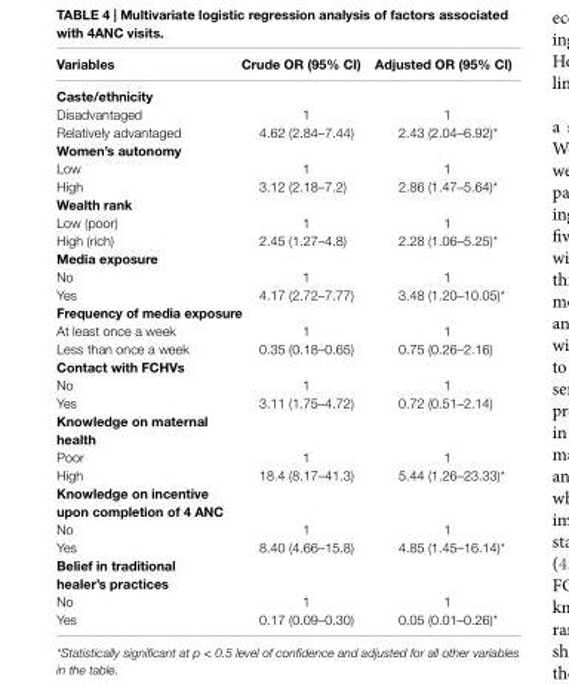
<table><thead><tr><td>Variables</td><td>crude Or (95% ci)</td><td>adjusted Or (95% ci)</td></tr></thead><tbody><tr><td colspan="3">caste/ethnicity</td></tr><tr><td>Disadvantaged</td><td>1</td><td>1</td></tr><tr><td>Relatively advantaged</td><td>4.62 (2.84–7.44)</td><td>2.43 (2.04–6.92)*</td></tr><tr><td colspan="3">Women’s autonomy</td></tr><tr><td>Low</td><td>1</td><td>1</td></tr><tr><td>High</td><td>3.12 (2.18–7.2)</td><td>2.86 (1.47–5.64)*</td></tr><tr><td colspan="3">Wealth rank</td></tr><tr><td>Low (poor)</td><td>1</td><td>1</td></tr><tr><td>High (rich)</td><td>2.45 (1.27–4.8)</td><td>2.28 (1.06–5.25)*</td></tr><tr><td colspan="3">Media exposure</td></tr><tr><td>No</td><td>1</td><td>1</td></tr><tr><td>Yes</td><td>4.17 (2.72–7.77)</td><td>3.48 (1.20–10.05)*</td></tr><tr><td colspan="3">Frequency of media exposure</td></tr><tr><td>At least once a week</td><td>1</td><td>1</td></tr><tr><td>Less than once a week</td><td>0.35 (0.18–0.65)</td><td>0.75 (0.26–2.16)</td></tr><tr><td colspan="3">contact with FchVs</td></tr><tr><td>No</td><td>1</td><td>1</td></tr><tr><td>Yes</td><td>3.11 (1.75–4.72)</td><td>0.72 (0.51–2.14)</td></tr><tr><td colspan="3">Knowledge on maternal health</td></tr><tr><td>Poor</td><td>1</td><td>1</td></tr><tr><td>High</td><td>18.4 (8.17–41.3)</td><td>5.44 (1.26–23.33)*</td></tr><tr><td colspan="3">Knowledge on incentive upon completion of 4 anc</td></tr><tr><td>No</td><td>1</td><td>1</td></tr><tr><td>Yes</td><td>8.40 (4.66–15.8)</td><td>4.85 (1.45–16.14)*</td></tr><tr><td colspan="3">Belief in traditional healer’s practices</td></tr><tr><td>No</td><td>1</td><td>1</td></tr><tr><td>Yes</td><td>0.17 (0.09–0.30)</td><td>0.05 (0.01–0.26)*</td></tr></tbody></table>